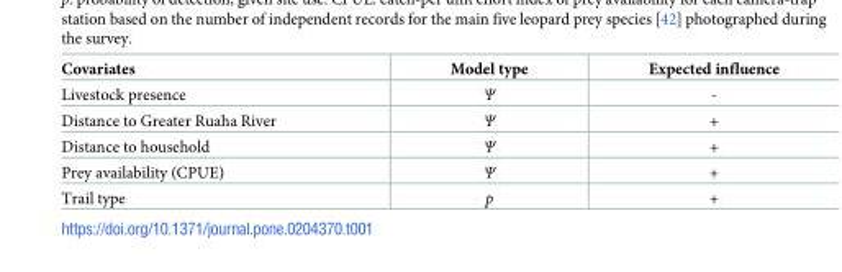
<table><thead><tr><td>Covariates</td><td>Model type</td><td>Expected influence</td></tr></thead><tbody><tr><td>Livestock presence</td><td>Ψ</td><td>-</td></tr><tr><td>Distance to Greater Ruaha River</td><td>Ψ</td><td>+</td></tr><tr><td>Distance to household</td><td>Ψ</td><td>+</td></tr><tr><td>Prey availability (CPUE)</td><td>Ψ</td><td>+</td></tr><tr><td>Trail type</td><td>p</td><td>+</td></tr></tbody></table>